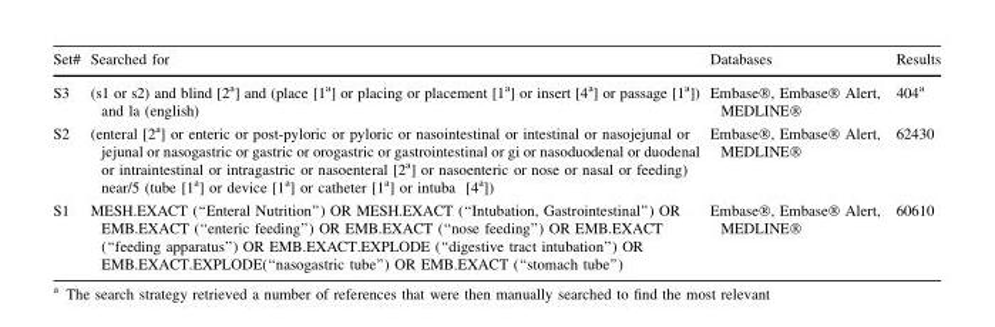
<table><thead><tr><td>Set#</td><td>Searched for</td><td>Databases</td><td>Results</td></tr></thead><tbody><tr><td>S3</td><td>(s1 or s2) and blind [2<sup>a</sup>] and (place [1<sup>a</sup>] or placing or placement [1<sup>a</sup>] or insert [4<sup>a</sup>] or passage [1<sup>a</sup>]) and la (english)</td><td>Embase®, Embase® Alert, MEDLINE®</td><td>404<sup>a</sup></td></tr><tr><td>S2</td><td>(enteral [2<sup>a</sup>] or enteric or post-pyloric or pyloric or nasointestinal or intestinal or nasojejunal or jejunal or nasogastric or gastric or orogastric or gastrointestinal or gi or nasoduodenal or duodenal or intraintestinal or intragastric or nasoenteral [2<sup>a</sup>] or nasoenteric or nose or nasal or feeding) near/5 (tube [1<sup>a</sup>] or device [1<sup>a</sup>] or catheter [1<sup>a</sup>] or intuba [4<sup>a</sup>])</td><td>Embase®, Embase® Alert, MEDLINE®</td><td>62430</td></tr><tr><td>S1</td><td>MESH.EXACT (‘‘Enteral Nutrition’’) OR MESH.EXACT (‘‘Intubation, Gastrointestinal’’) OR EMB.EXACT (‘‘enteric feeding’’) OR EMB.EXACT (‘‘nose feeding’’) OR EMB.EXACT (‘‘feeding apparatus’’) OR EMB.EXACT.EXPLODE (‘‘digestive tract intubation’’) OR EMB.EXACT.EXPLODE(‘‘nasogastric tube’’) OR EMB.EXACT (‘‘stomach tube’’)</td><td>Embase®, Embase® Alert, MEDLINE®</td><td>60610</td></tr></tbody></table>